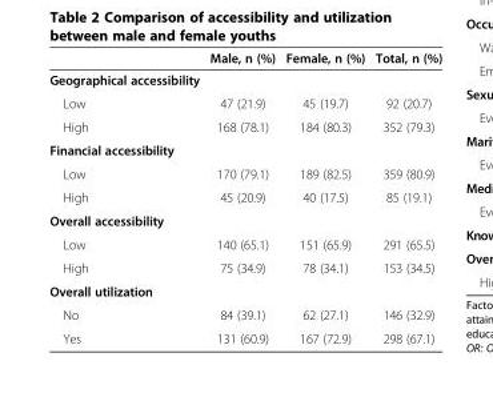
<table><thead><tr><td></td><td>Male, n (%)</td><td>Female, n (%)</td><td>Total, n (%)</td></tr></thead><tbody><tr><td colspan="4">Geographical accessibility</td></tr><tr><td>Low</td><td>47 (21.9)</td><td>45 (19.7)</td><td>92 (20.7)</td></tr><tr><td>High</td><td>168 (78.1)</td><td>184 (80.3)</td><td>352 (79.3)</td></tr><tr><td colspan="4">Financial accessibility</td></tr><tr><td>Low</td><td>170 (79.1)</td><td>189 (82.5)</td><td>359 (80.9)</td></tr><tr><td>High</td><td>45 (20.9)</td><td>40 (17.5)</td><td>85 (19.1)</td></tr><tr><td colspan="4">Overall accessibility</td></tr><tr><td>Low</td><td>140 (65.1)</td><td>151 (65.9)</td><td>291 (65.5)</td></tr><tr><td>High</td><td>75 (34.9)</td><td>78 (34.1)</td><td>153 (34.5)</td></tr><tr><td colspan="4">Overall utilization</td></tr><tr><td>No</td><td>84 (39.1)</td><td>62 (27.1)</td><td>146 (32.9)</td></tr><tr><td>Yes</td><td>131 (60.9)</td><td>167 (72.9)</td><td>298 (67.1)</td></tr></tbody></table>